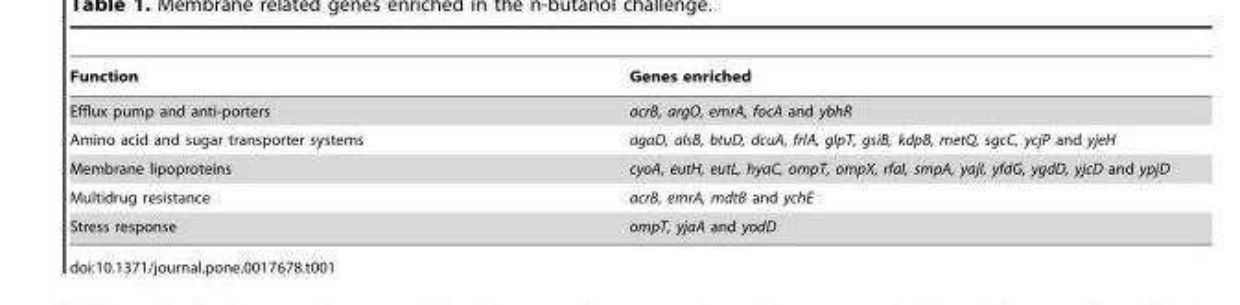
<table><thead><tr><td>Function</td><td>Genes enriched</td></tr></thead><tbody><tr><td>Efflux pump and anti-porters</td><td>acrB, argO, emrA, focA and ybhR</td></tr><tr><td>Amino acid and sugar transporter systems</td><td>agaD, alsB, btuD, dcuA, frlA, glpT, gsiB, kdpB, metQ, sgcC, ycjP and yjeH</td></tr><tr><td>Membrane lipoproteins</td><td>cyoA, eutH, eutL, hyaC, ompT, ompX, rfaI, smpA, yajI, yfdG, ygdD, yjcD and ypjD</td></tr><tr><td>Multidrug resistance</td><td>acrB, emrA, mdtB and ychE</td></tr><tr><td>Stress response</td><td>ompT, yjaA and yodD</td></tr></tbody></table>